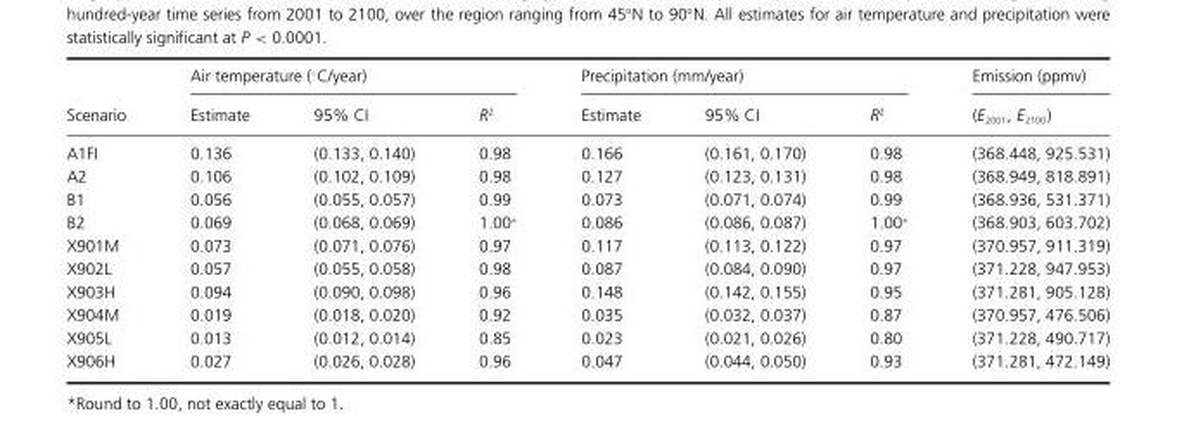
<table><thead><tr><td rowspan="2">Scenario</td><td colspan="3">Air temperature (◦C/year)</td><td colspan="3">Precipitation (mm/year)</td><td rowspan="2">Emission (ppmv) (E<sub>2001</sub>, E<sub>2100</sub>)</td></tr><tr><td>Estimate</td><td>95% CI</td><td>R<sup>2</sup></td><td>Estimate</td><td>95% CI</td><td>R<sup>2</sup></td></tr></thead><tbody><tr><td>A1FI</td><td>0.136</td><td>(0.133, 0.140)</td><td>0.98</td><td>0.166</td><td>(0.161, 0.170)</td><td>0.98</td><td>(368.448, 925.531)</td></tr><tr><td>A2</td><td>0.106</td><td>(0.102, 0.109)</td><td>0.98</td><td>0.127</td><td>(0.123, 0.131)</td><td>0.98</td><td>(368.949, 818.891)</td></tr><tr><td>B1</td><td>0.056</td><td>(0.055, 0.057)</td><td>0.99</td><td>0.073</td><td>(0.071, 0.074)</td><td>0.99</td><td>(368.936, 531.371)</td></tr><tr><td>B2</td><td>0.069</td><td>(0.068, 0.069)</td><td>1.00∗</td><td>0.086</td><td>(0.086, 0.087)</td><td>1.00∗</td><td>(368.903, 603.702)</td></tr><tr><td>X901M</td><td>0.073</td><td>(0.071, 0.076)</td><td>0.97</td><td>0.117</td><td>(0.113, 0.122)</td><td>0.97</td><td>(370.957, 911.319)</td></tr><tr><td>X902L</td><td>0.057</td><td>(0.055, 0.058)</td><td>0.98</td><td>0.087</td><td>(0.084, 0.090)</td><td>0.97</td><td>(371.228, 947.953)</td></tr><tr><td>X903H</td><td>0.094</td><td>(0.090, 0.098)</td><td>0.96</td><td>0.148</td><td>(0.142, 0.155)</td><td>0.95</td><td>(371.281, 905.128)</td></tr><tr><td>X904M</td><td>0.019</td><td>(0.018, 0.020)</td><td>0.92</td><td>0.035</td><td>(0.032, 0.037)</td><td>0.87</td><td>(370.957, 476.506)</td></tr><tr><td>X905L</td><td>0.013</td><td>(0.012, 0.014)</td><td>0.85</td><td>0.023</td><td>(0.021, 0.026)</td><td>0.80</td><td>(371.228, 490.717)</td></tr><tr><td>X906H</td><td>0.027</td><td>(0.026, 0.028)</td><td>0.96</td><td>0.047</td><td>(0.044, 0.050)</td><td>0.93</td><td>(371.281, 472.149)</td></tr></tbody></table>